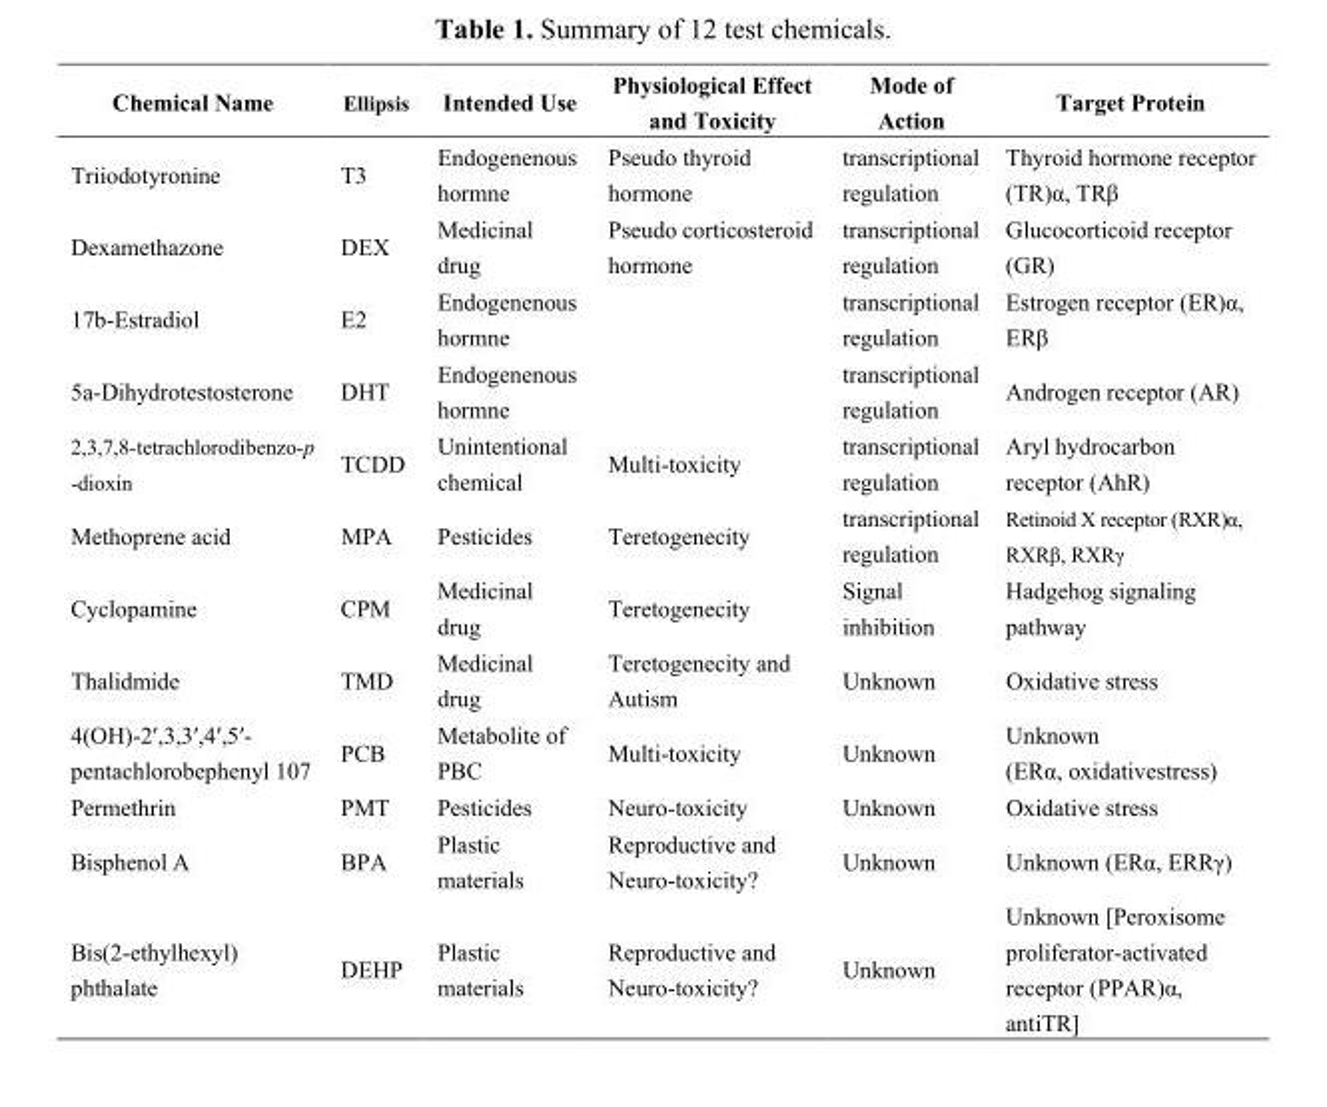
<table><thead><tr><td>Chemical Name</td><td>Ellipsis</td><td>Intended Use</td><td>Physiological Effect and Toxicity</td><td>Mode of Action</td><td>Target Protein</td></tr></thead><tbody><tr><td>Triiodotyronine</td><td>T3</td><td>Endogenenous hormne</td><td>Pseudo thyroid hormone</td><td>transcriptional regulation</td><td>Thyroid hormone receptor (TR)α, TRβ</td></tr><tr><td>Dexamethazone</td><td>DEX</td><td>Medicinal drug</td><td>Pseudo corticosteroid hormone</td><td>transcriptional regulation</td><td>Glucocorticoid receptor (GR)</td></tr><tr><td>17b-Estradiol</td><td>E2</td><td>Endogenenous hormne</td><td></td><td>transcriptional regulation</td><td>Estrogen receptor (ER)α, ERβ</td></tr><tr><td>5a-Dihydrotestosterone</td><td>DHT</td><td>Endogenenous hormne</td><td></td><td>transcriptional regulation</td><td>Androgen receptor (AR)</td></tr><tr><td>2,3,7,8-tetrachlorodibenzo-p -dioxin</td><td>TCDD</td><td>Unintentional chemical</td><td>Multi-toxicity</td><td>transcriptional regulation</td><td>Aryl hydrocarbon receptor (AhR)</td></tr><tr><td>Methoprene acid</td><td>MPA</td><td>Pesticides</td><td>Teretogenecity</td><td>transcriptional regulation</td><td>Retinoid X receptor (RXR)α, RXRβ, RXRγ</td></tr><tr><td>Cyclopamine</td><td>CPM</td><td>Medicinal drug</td><td>Teretogenecity</td><td>Signal inhibition</td><td>Hadgehog signaling pathway</td></tr><tr><td>Thalidmide</td><td>TMD</td><td>Medicinal drug</td><td>Teretogenecity and Autism</td><td>Unknown</td><td>Oxidative stress</td></tr><tr><td>4(OH)-2′,3,3′,4′,5′- pentachlorobephenyl 107</td><td>PCB</td><td>Metabolite of PBC</td><td>Multi-toxicity</td><td>Unknown</td><td>Unknown (ERα, oxidativestress)</td></tr><tr><td>Permethrin</td><td>PMT</td><td>Pesticides</td><td>Neuro-toxicity</td><td>Unknown</td><td>Oxidative stress</td></tr><tr><td>Bisphenol A</td><td>BPA</td><td>Plastic materials</td><td>Reproductive and Neuro-toxicity?</td><td>Unknown</td><td>Unknown (ERα, ERRγ)</td></tr><tr><td>Bis(2-ethylhexyl) phthalate</td><td>DEHP</td><td>Plastic materials</td><td>Reproductive and Neuro-toxicity?</td><td>Unknown</td><td>Unknown [Peroxisome proliferator-activated receptor (PPAR)α, antiTR]</td></tr></tbody></table>